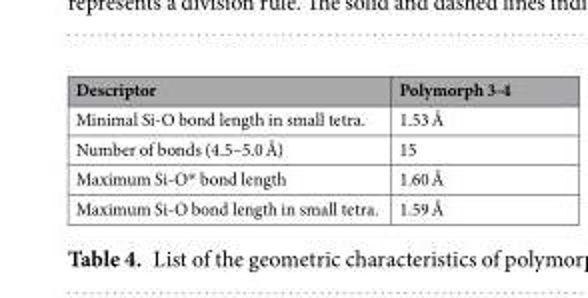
<table><thead><tr><td>Descriptor</td><td>Polymorph 3-4</td></tr></thead><tbody><tr><td>Minimal Si-O bond length in small tetra.</td><td>1.53 Å</td></tr><tr><td>Number of bonds (4.5–5.0 Å)</td><td>15</td></tr><tr><td>Maximum Si-O* bond length</td><td>1.60 Å</td></tr><tr><td>Maximum Si-O bond length in small tetra.</td><td>1.59 Å</td></tr></tbody></table>